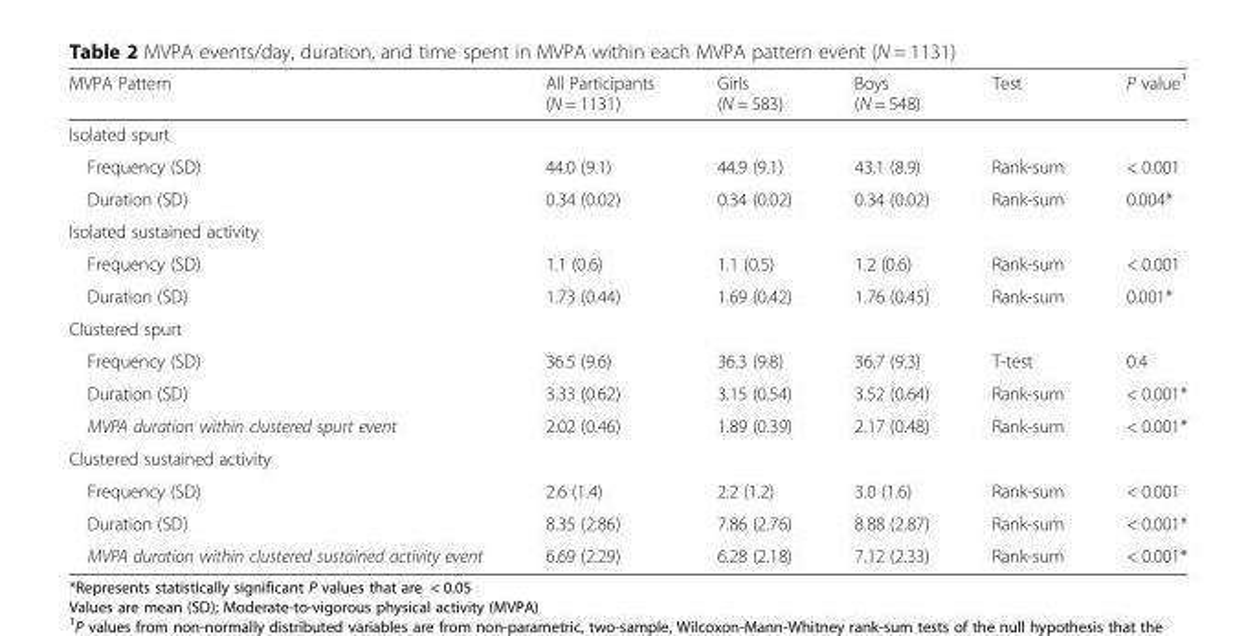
<table><thead><tr><td>MVPA Pattern</td><td>All Participants (N = 1131)</td><td>Girls (N = 583)</td><td>Boys (N = 548)</td><td>Test</td><td>P value<sup>1</sup></td></tr></thead><tbody><tr><td colspan="6">Isolated spurt</td></tr><tr><td>Frequency (SD)</td><td>44.0 (9.1)</td><td>44.9 (9.1)</td><td>43.1 (8.9)</td><td>Rank-sum</td><td>&lt; 0.001</td></tr><tr><td>Duration (SD)</td><td>0.34 (0.02)</td><td>0.34 (0.02)</td><td>0.34 (0.02)</td><td>Rank-sum</td><td>0.004*</td></tr><tr><td colspan="6">Isolated sustained activity</td></tr><tr><td>Frequency (SD)</td><td>1.1 (0.6)</td><td>1.1 (0.5)</td><td>1.2 (0.6)</td><td>Rank-sum</td><td>&lt; 0.001</td></tr><tr><td>Duration (SD)</td><td>1.73 (0.44)</td><td>1.69 (0.42)</td><td>1.76 (0.45)</td><td>Rank-sum</td><td>0.001*</td></tr><tr><td colspan="6">Clustered spurt</td></tr><tr><td>Frequency (SD)</td><td>36.5 (9.6)</td><td>36.3 (9.8)</td><td>36.7 (9.3)</td><td>T-test</td><td>0.4</td></tr><tr><td>Duration (SD)</td><td>3.33 (0.62)</td><td>3.15 (0.54)</td><td>3.52 (0.64)</td><td>Rank-sum</td><td>&lt; 0.001*</td></tr><tr><td>MVPA duration within clustered spurt event</td><td>2.02 (0.46)</td><td>1.89 (0.39)</td><td>2.17 (0.48)</td><td>Rank-sum</td><td>&lt; 0.001*</td></tr><tr><td colspan="6">Clustered sustained activity</td></tr><tr><td>Frequency (SD)</td><td>2.6 (1.4)</td><td>2.2 (1.2)</td><td>3.0 (1.6)</td><td>Rank-sum</td><td>&lt; 0.001</td></tr><tr><td>Duration (SD)</td><td>8.35 (2.86)</td><td>7.86 (2.76)</td><td>8.88 (2.87)</td><td>Rank-sum</td><td>&lt; 0.001*</td></tr><tr><td>MVPA duration within clustered sustained activity event</td><td>6.69 (2.29)</td><td>6.28 (2.18)</td><td>7.12 (2.33)</td><td>Rank-sum</td><td>&lt; 0.001*</td></tr></tbody></table>